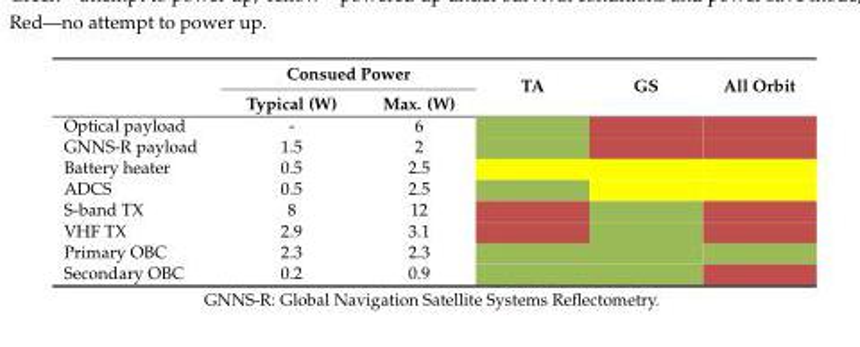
<table><thead><tr><td rowspan="2"></td><td colspan="2">Consued Power</td><td rowspan="2">TA</td><td rowspan="2">GS</td><td rowspan="2">All Orbit</td></tr><tr><td>Typical (W)</td><td>Max. (W)</td></tr></thead><tbody><tr><td>Optical payload</td><td>-</td><td>6</td><td></td><td></td><td></td></tr><tr><td>GNNS-R payload</td><td>1.5</td><td>2</td><td></td><td></td><td></td></tr><tr><td>Battery heater</td><td>0.5</td><td>2.5</td><td></td><td></td><td></td></tr><tr><td>ADCS</td><td>0.5</td><td>2.5</td><td></td><td></td><td></td></tr><tr><td>S-band TX</td><td>8</td><td>12</td><td></td><td></td><td></td></tr><tr><td>VHF TX</td><td>2.9</td><td>3.1</td><td></td><td></td><td></td></tr><tr><td>Primary OBC</td><td>2.3</td><td>2.3</td><td></td><td></td><td></td></tr><tr><td>Secondary OBC</td><td>0.2</td><td>0.9</td><td></td><td></td><td></td></tr></tbody></table>